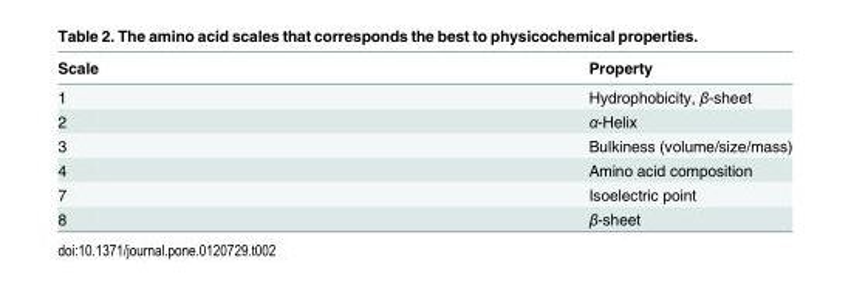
<table><thead><tr><td>Scale</td><td>Property</td></tr></thead><tbody><tr><td>1</td><td>Hydrophobicity, β-sheet</td></tr><tr><td>2</td><td>α-Helix</td></tr><tr><td>3</td><td>Bulkiness (volume/size/mass)</td></tr><tr><td>4</td><td>Amino acid composition</td></tr><tr><td>7</td><td>Isoelectric point</td></tr><tr><td>8</td><td>β-sheet</td></tr></tbody></table>